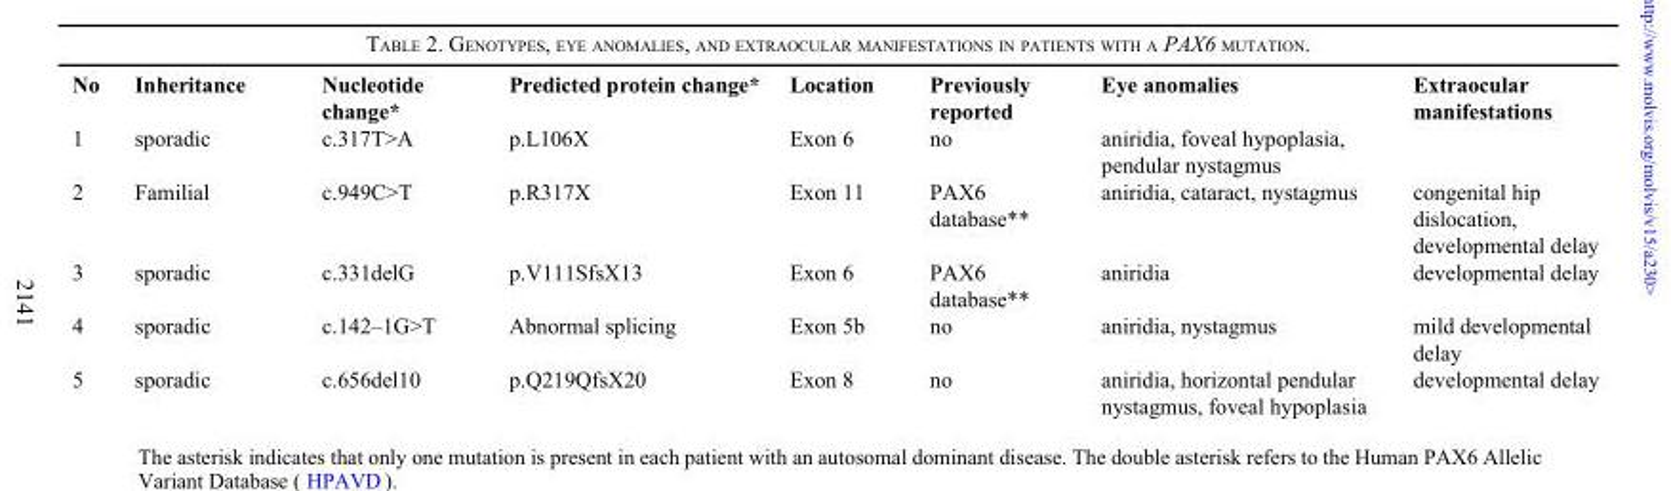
<table><thead><tr><td>No</td><td>Inheritance</td><td>Nucleotide change*</td><td>Predicted protein change*</td><td>Location</td><td>Previously reported</td><td>Eye anomalies</td><td>Extraocular manifestations</td></tr></thead><tbody><tr><td>1</td><td>sporadic</td><td>c.317T&gt;A</td><td>p.L106X</td><td>Exon 6</td><td>no</td><td>aniridia, foveal hypoplasia, pendular nystagmus</td><td></td></tr><tr><td>2</td><td>Familial</td><td>c.949C&gt;T</td><td>p.R317X</td><td>Exon 11</td><td>PAX6 database**</td><td>aniridia, cataract, nystagmus</td><td>congenital hip dislocation, developmental delay</td></tr><tr><td>3</td><td>sporadic</td><td>c.331delG</td><td>p.V111SfsX13</td><td>Exon 6</td><td>PAX6 database**</td><td>aniridia</td><td>developmental delay</td></tr><tr><td>4</td><td>sporadic</td><td>c.142–1G&gt;T</td><td>Abnormal splicing</td><td>Exon 5b</td><td>no</td><td>aniridia, nystagmus</td><td>mild developmental delay</td></tr><tr><td>5</td><td>sporadic</td><td>c.656del10</td><td>p.Q219QfsX20</td><td>Exon 8</td><td>no</td><td>aniridia, horizontal pendular nystagmus, foveal hypoplasia</td><td>developmental delay</td></tr></tbody></table>